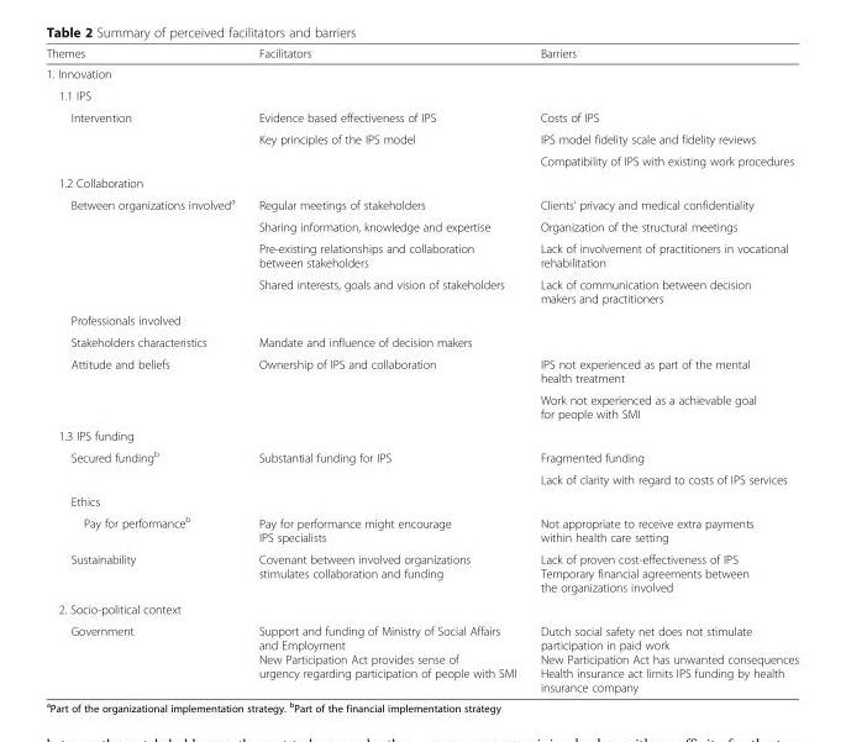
<table><thead><tr><td>Themes</td><td>Facilitators</td><td>Barriers</td></tr></thead><tbody><tr><td colspan="3">1. Innovation</td></tr><tr><td colspan="3">1.1 IPS</td></tr><tr><td rowspan="3">Intervention</td><td>Evidence based effectiveness of IPS</td><td>Costs of IPS</td></tr><tr><td>Key principles of the IPS model</td><td>IPS model fidelity scale and fidelity reviews</td></tr><tr><td></td><td>Compatibility of IPS with existing work procedures</td></tr><tr><td colspan="3">1.2 Collaboration</td></tr><tr><td rowspan="4">Between organizations involved<sup>a</sup></td><td>Regular meetings of stakeholders</td><td>Clients’ privacy and medical confidentiality</td></tr><tr><td>Sharing information, knowledge and expertise</td><td>Organization of the structural meetings</td></tr><tr><td>Pre-existing relationships and collaboration between stakeholders</td><td>Lack of involvement of practitioners in vocational rehabilitation</td></tr><tr><td>Shared interests, goals and vision of stakeholders</td><td>Lack of communication between decision makers and practitioners</td></tr><tr><td colspan="3">Professionals involved</td></tr><tr><td>Stakeholders characteristics</td><td>Mandate and influence of decision makers</td><td></td></tr><tr><td rowspan="2">Attitude and beliefs</td><td>Ownership of IPS and collaboration</td><td>IPS not experienced as part of the mental health treatment</td></tr><tr><td></td><td>Work not experienced as a achievable goal for people with SMI</td></tr><tr><td colspan="3">1.3 IPS funding</td></tr><tr><td rowspan="2">Secured funding<sup>b</sup></td><td>Substantial funding for IPS</td><td>Fragmented funding</td></tr><tr><td></td><td>Lack of clarity with regard to costs of IPS services</td></tr><tr><td colspan="3">Ethics</td></tr><tr><td>Pay for performance<sup>b</sup></td><td>Pay for performance might encourage IPS specialists</td><td>Not appropriate to receive extra payments within health care setting</td></tr><tr><td>Sustainability</td><td>Covenant between involved organizations stimulates collaboration and funding</td><td>Lack of proven cost-effectiveness of IPS Temporary financial agreements between the organizations involved</td></tr><tr><td colspan="3">2. Socio-political context</td></tr><tr><td>Government</td><td>Support and funding of Ministry of Social Affairs and Employment New Participation Act provides sense of urgency regarding participation of people with SMI</td><td>Dutch social safety net does not stimulate participation in paid work New Participation Act has unwanted consequences Health insurance act limits IPS funding by health insurance company</td></tr></tbody></table>